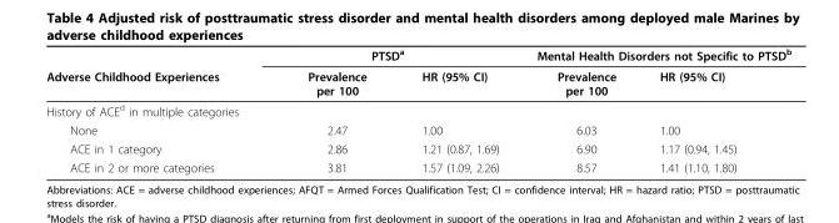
<table><thead><tr><td rowspan="2">Adverse Childhood Experiences</td><td colspan="2">PTSD<sup>a</sup></td><td colspan="2">Mental Health Disorders not Specific to PTSD<sup>b</sup></td></tr><tr><td>Prevalence per 100</td><td>HR (95% CI)</td><td>Prevalence per 100</td><td>HR (95% CI)</td></tr></thead><tbody><tr><td colspan="5">History of ACE<sup>d</sup> in multiple categories</td></tr><tr><td>None</td><td>2.47</td><td>1.00</td><td>6.03</td><td>1.00</td></tr><tr><td>ACE in 1 category</td><td>2.86</td><td>1.21 (0.87, 1.69)</td><td>6.90</td><td>1.17 (0.94, 1.45)</td></tr><tr><td>ACE in 2 or more categories</td><td>3.81</td><td>1.57 (1.09, 2.26)</td><td>8.57</td><td>1.41 (1.10, 1.80)</td></tr></tbody></table>